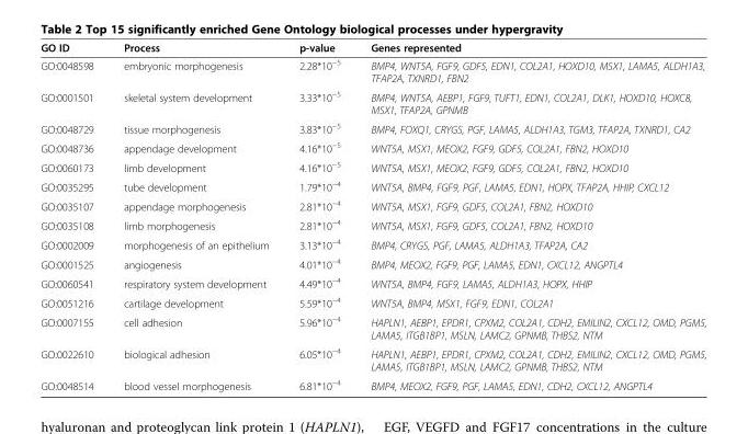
<table><thead><tr><td>GO ID</td><td>Process</td><td>p-value</td><td>Genes represented</td></tr></thead><tbody><tr><td>GO:0048598</td><td>embryonic morphogenesis</td><td>2.28*10<sup>−5</sup></td><td>BMP4, WNT5A, FGF9, GDF5, EDN1, COL2A1, HOXD10, MSX1, LAMA5, ALDH1A3, TFAP2A, TXNRD1, FBN2</td></tr><tr><td>GO:0001501</td><td>skeletal system development</td><td>3.33*10<sup>−5</sup></td><td>BMP4, WNT5A, AEBP1, FGF9, TUFT1, EDN1, COL2A1, DLK1, HOXD10, HOXC8, MSX1, TFAP2A, GPNMB</td></tr><tr><td>GO:0048729</td><td>tissue morphogenesis</td><td>3.83*10<sup>−5</sup></td><td>BMP4, FOXQ1, CRYGS, PGF, LAMA5, ALDH1A3, TGM3, TFAP2A, TXNRD1, CA2</td></tr><tr><td>GO:0048736</td><td>appendage development</td><td>4.16*10<sup>−5</sup></td><td>WNT5A, MSX1, MEOX2, FGF9, GDF5, COL2A1, FBN2, HOXD10</td></tr><tr><td>GO:0060173</td><td>limb development</td><td>4.16*10<sup>−5</sup></td><td>WNT5A, MSX1, MEOX2, FGF9, GDF5, COL2A1, FBN2, HOXD10</td></tr><tr><td>GO:0035295</td><td>tube development</td><td>1.79*10<sup>−4</sup></td><td>WNT5A, BMP4, FGF9, PGF, LAMA5, EDN1, HOPX, TFAP2A, HHIP, CXCL12</td></tr><tr><td>GO:0035107</td><td>appendage morphogenesis</td><td>2.81*10<sup>−4</sup></td><td>WNT5A, MSX1, FGF9, GDF5, COL2A1, FBN2, HOXD10</td></tr><tr><td>GO:0035108</td><td>limb morphogenesis</td><td>2.81*10<sup>−4</sup></td><td>WNT5A, MSX1, FGF9, GDF5, COL2A1, FBN2, HOXD10</td></tr><tr><td>GO:0002009</td><td>morphogenesis of an epithelium</td><td>3.13*10<sup>−4</sup></td><td>BMP4, CRYGS, PGF, LAMA5, ALDH1A3, TFAP2A, CA2</td></tr><tr><td>GO:0001525</td><td>angiogenesis</td><td>4.01*10<sup>−4</sup></td><td>BMP4, MEOX2, FGF9, PGF, LAMA5, EDN1, CXCL12, ANGPTL4</td></tr><tr><td>GO:0060541</td><td>respiratory system development</td><td>4.49*10<sup>−4</sup></td><td>WNT5A, BMP4, FGF9, LAMA5, ALDH1A3, HOPX, HHIP</td></tr><tr><td>GO:0051216</td><td>cartilage development</td><td>5.59*10<sup>−4</sup></td><td>WNT5A, BMP4, MSX1, FGF9, EDN1, COL2A1</td></tr><tr><td>GO:0007155</td><td>cell adhesion</td><td>5.96*10<sup>−4</sup></td><td>HAPLN1, AEBP1, EPDR1, CPXM2, COL2A1, CDH2, EMILIN2, CXCL12, OMD, PGM5, LAMA5, ITGB1BP1, MSLN, LAMC2, GPNMB, THBS2, NTM</td></tr><tr><td>GO:0022610</td><td>biological adhesion</td><td>6.05*10<sup>−4</sup></td><td>HAPLN1, AEBP1, EPDR1, CPXM2, COL2A1, CDH2, EMILIN2, CXCL12, OMD, PGM5, LAMA5, ITGB1BP1, MSLN, LAMC2, GPNMB, THBS2, NTM</td></tr><tr><td>GO:0048514</td><td>blood vessel morphogenesis</td><td>6.81*10<sup>−4</sup></td><td>BMP4, MEOX2, FGF9, PGF, LAMA5, EDN1, CDH2, CXCL12, ANGPTL4</td></tr></tbody></table>